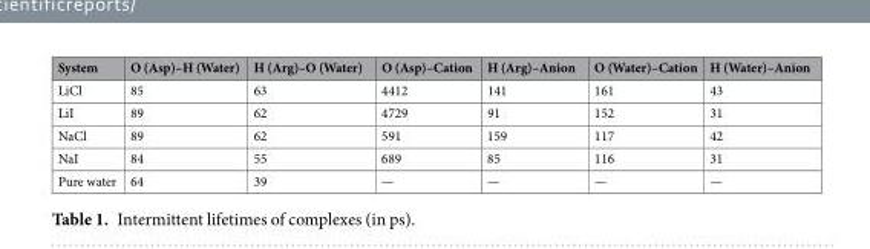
<table><thead><tr><td>System</td><td>O (Asp)–H (Water)</td><td>H (Arg)–O (Water)</td><td>O (Asp)–Cation</td><td>H (Arg)–Anion</td><td>O (Water)–Cation</td><td>H (Water)–Anion</td></tr></thead><tbody><tr><td>LiCl</td><td>85</td><td>63</td><td>4412</td><td>141</td><td>161</td><td>43</td></tr><tr><td>LiI</td><td>89</td><td>62</td><td>4729</td><td>91</td><td>152</td><td>31</td></tr><tr><td>NaCl</td><td>89</td><td>62</td><td>591</td><td>159</td><td>117</td><td>42</td></tr><tr><td>NaI</td><td>84</td><td>55</td><td>689</td><td>85</td><td>116</td><td>31</td></tr><tr><td>Pure water</td><td>64</td><td>39</td><td>—</td><td>—</td><td>—</td><td>—</td></tr></tbody></table>